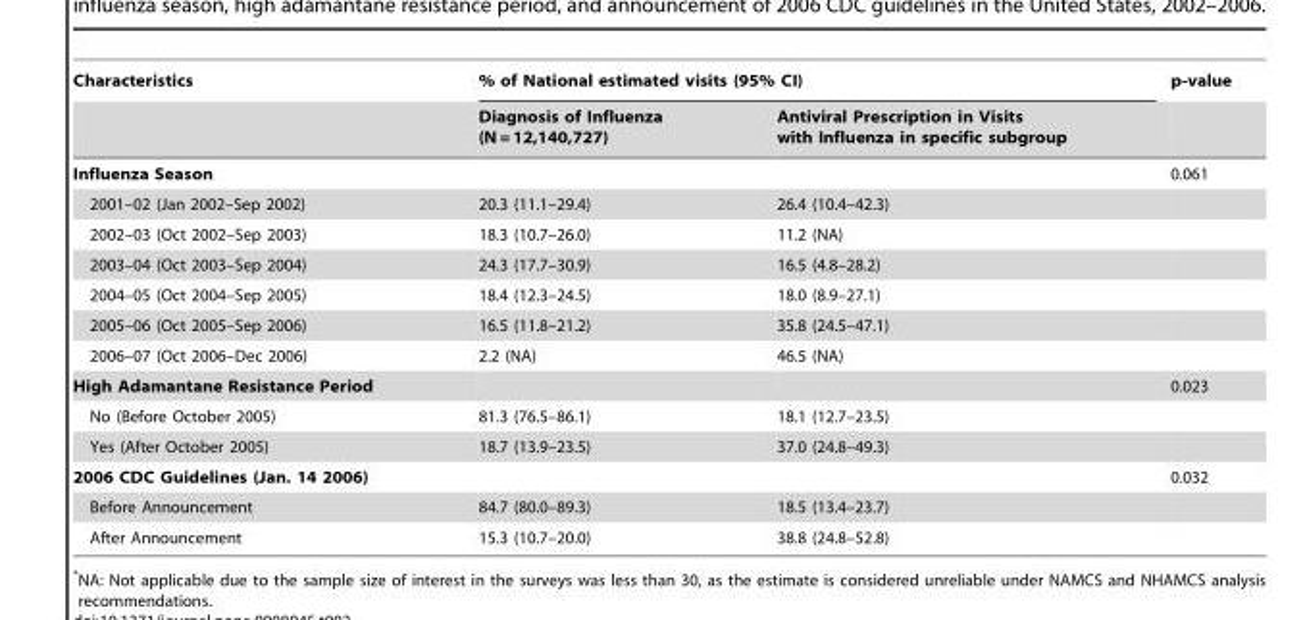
<table><thead><tr><td rowspan="2">Characteristics</td><td colspan="2">% of National estimated visits (95% CI)</td><td rowspan="2">p-value</td></tr><tr><td>Diagnosis of Influenza (N = 12,140,727)</td><td>Antiviral Prescription in Visits with Influenza in specific subgroup</td></tr></thead><tbody><tr><td>Influenza Season</td><td></td><td></td><td>0.061</td></tr><tr><td>2001–02 (Jan 2002–Sep 2002)</td><td>20.3 (11.1–29.4)</td><td>26.4 (10.4–42.3)</td><td></td></tr><tr><td>2002–03 (Oct 2002–Sep 2003)</td><td>18.3 (10.7–26.0)</td><td>11.2 (NA)</td><td></td></tr><tr><td>2003–04 (Oct 2003–Sep 2004)</td><td>24.3 (17.7–30.9)</td><td>16.5 (4.8–28.2)</td><td></td></tr><tr><td>2004–05 (Oct 2004–Sep 2005)</td><td>18.4 (12.3–24.5)</td><td>18.0 (8.9–27.1)</td><td></td></tr><tr><td>2005–06 (Oct 2005–Sep 2006)</td><td>16.5 (11.8–21.2)</td><td>35.8 (24.5–47.1)</td><td></td></tr><tr><td>2006–07 (Oct 2006–Dec 2006)</td><td>2.2 (NA)</td><td>46.5 (NA)</td><td></td></tr><tr><td>High Adamantane Resistance Period</td><td></td><td></td><td>0.023</td></tr><tr><td>No (Before October 2005)</td><td>81.3 (76.5–86.1)</td><td>18.1 (12.7–23.5)</td><td></td></tr><tr><td>Yes (After October 2005)</td><td>18.7 (13.9–23.5)</td><td>37.0 (24.8–49.3)</td><td></td></tr><tr><td>2006 CDC Guidelines (Jan. 14 2006)</td><td></td><td></td><td>0.032</td></tr><tr><td>Before Announcement</td><td>84.7 (80.0–89.3)</td><td>18.5 (13.4–23.7)</td><td></td></tr><tr><td>After Announcement</td><td>15.3 (10.7–20.0)</td><td>38.8 (24.8–52.8)</td><td></td></tr></tbody></table>